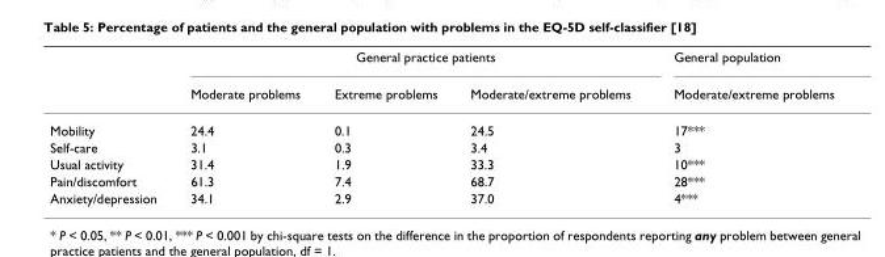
<table><thead><tr><td rowspan="2"></td><td colspan="3">General practice patients</td><td rowspan="2">General population Moderate/extreme problems</td></tr><tr><td>Moderate problems</td><td>Extreme problems</td><td>Moderate/extreme problems</td></tr></thead><tbody><tr><td>Mobility</td><td>24.4</td><td>0.1</td><td>24.5</td><td>17***</td></tr><tr><td>Self-care</td><td>3.1</td><td>0.3</td><td>3.4</td><td>3</td></tr><tr><td>Usual activity</td><td>31.4</td><td>1.9</td><td>33.3</td><td>10***</td></tr><tr><td>Pain/discomfort</td><td>61.3</td><td>7.4</td><td>68.7</td><td>28***</td></tr><tr><td>Anxiety/depression</td><td>34.1</td><td>2.9</td><td>37.0</td><td>4***</td></tr></tbody></table>